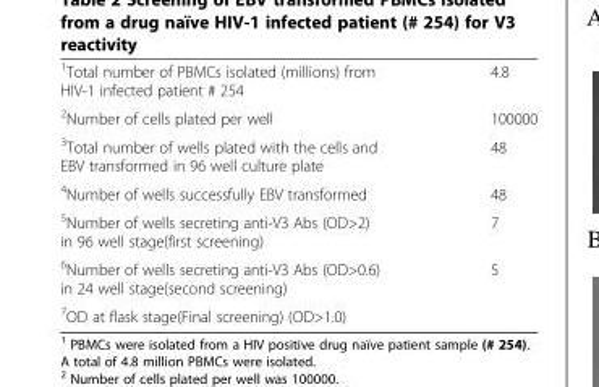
<table><tbody><tr><td><sup>1</sup>Total number of PBMCs isolated (millions) from HIV-1 infected patient # 254</td><td>4.8</td></tr><tr><td><sup>2</sup>Number of cells plated per well</td><td>100000</td></tr><tr><td><sup>3</sup>Total number of wells plated with the cells and EBV transformed in 96 well culture plate</td><td>48</td></tr><tr><td><sup>4</sup>Number of wells successfully EBV transformed</td><td>48</td></tr><tr><td><sup>5</sup>Number of wells secreting anti-V3 Abs (OD&gt;2) in 96 well stage(first screening)</td><td>7</td></tr><tr><td><sup>6</sup>Number of wells secreting anti-V3 Abs (OD&gt;0.6) in 24 well stage(second screening)</td><td>5</td></tr><tr><td><sup>7</sup>OD at flask stage(Final screening) (OD&gt;1.0)</td><td></td></tr></tbody></table>